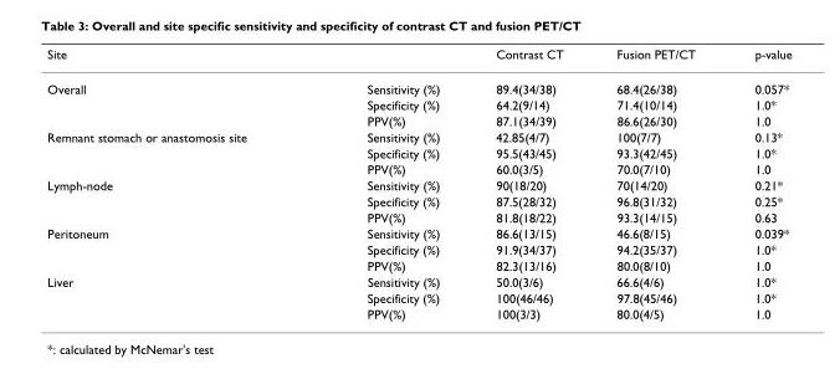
<table><thead><tr><td colspan="2">Site</td><td rowspan="2">Contrast CT 89.4(34/38)</td><td rowspan="2">Fusion PET/CT 68.4(26/38)</td><td rowspan="2">p-value 0.057*</td></tr><tr><td>Overall</td><td>Sensitivity (%)</td></tr></thead><tbody><tr><td></td><td>Specificity (%)</td><td>64.2(9/14)</td><td>71.4(10/14)</td><td>1.0*</td></tr><tr><td></td><td>PPV(%)</td><td>87.1(34/39)</td><td>86.6(26/30)</td><td>1.0</td></tr><tr><td rowspan="3">Remnant stomach or anastomosis site</td><td>Sensitivity (%)</td><td>42.85(4/7)</td><td>100(7/7)</td><td>0.13*</td></tr><tr><td>Specificity (%)</td><td>95.5(43/45)</td><td>93.3(42/45)</td><td>1.0*</td></tr><tr><td>PPV(%)</td><td>60.0(3/5)</td><td>70.0(7/10)</td><td>1.0</td></tr><tr><td rowspan="3">Lymph-node</td><td>Sensitivity (%)</td><td>90(18/20)</td><td>70(14/20)</td><td>0.21*</td></tr><tr><td>Specificity (%)</td><td>87.5(28/32)</td><td>96.8(31/32)</td><td>0.25*</td></tr><tr><td>PPV(%)</td><td>81.8(18/22)</td><td>93.3(14/15)</td><td>0.63</td></tr><tr><td rowspan="3">Peritoneum</td><td>Sensitivity (%)</td><td>86.6(13/15)</td><td>46.6(8/15)</td><td>0.039*</td></tr><tr><td>Specificity (%)</td><td>91.9(34/37)</td><td>94.2(35/37)</td><td>1.0*</td></tr><tr><td>PPV(%)</td><td>82.3(13/16)</td><td>80.0(8/10)</td><td>1.0</td></tr><tr><td rowspan="3">Liver</td><td>Sensitivity (%)</td><td>50.0(3/6)</td><td>66.6(4/6)</td><td>1.0*</td></tr><tr><td>Specificity (%)</td><td>100(46/46)</td><td>97.8(45/46)</td><td>1.0*</td></tr><tr><td>PPV(%)</td><td>100(3/3)</td><td>80.0(4/5)</td><td>1.0</td></tr></tbody></table>